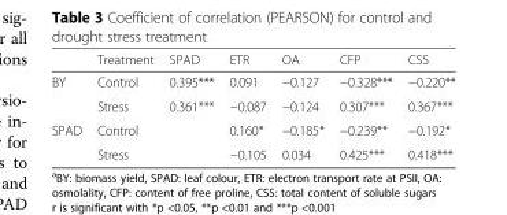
<table><thead><tr><td></td><td>Treatment</td><td>SPAD</td><td>ETR</td><td>OA</td><td>CFP</td><td>CSS</td></tr></thead><tbody><tr><td rowspan="2">BY</td><td>Control</td><td>0.395***</td><td>0.091</td><td>−0.127</td><td>−0.328***</td><td>−0.220**</td></tr><tr><td>Stress</td><td>0.361***</td><td>−0.087</td><td>−0.124</td><td>0.307***</td><td>0.367***</td></tr><tr><td rowspan="2">SPAD</td><td>Control</td><td></td><td>0.160*</td><td>−0.185*</td><td>−0.239**</td><td>−0.192*</td></tr><tr><td>Stress</td><td></td><td>−0.105</td><td>0.034</td><td>0.425***</td><td>0.418***</td></tr></tbody></table>